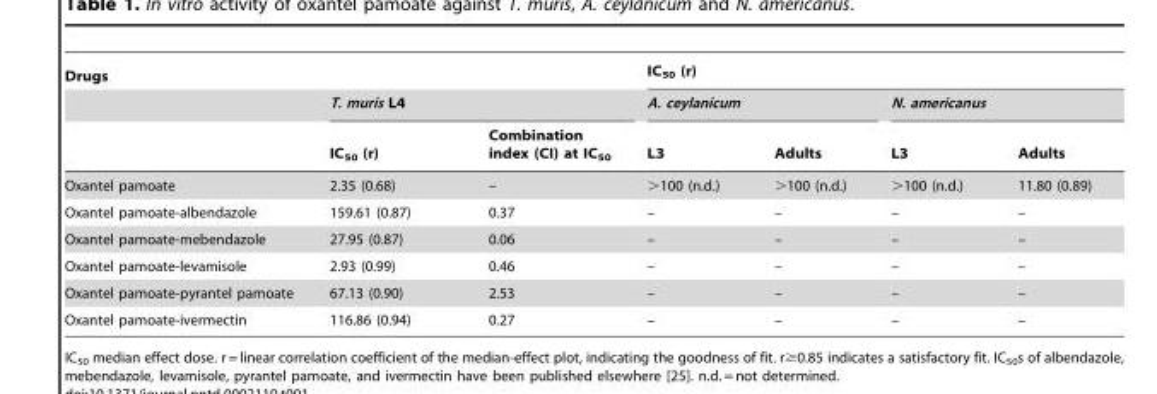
<table><thead><tr><td rowspan="3">Drugs</td><td></td><td></td><td colspan="4">IC<sub>50</sub> (r)</td></tr><tr><td colspan="2">T. muris L4</td><td colspan="2">A. ceylanicum</td><td colspan="2">N. americanus</td></tr><tr><td>IC<sub>50</sub> (r)</td><td>Combination index (CI) at IC<sub>50</sub></td><td>L3</td><td>Adults</td><td>L3</td><td>Adults</td></tr></thead><tbody><tr><td>Oxantel pamoate</td><td>2.35 (0.68)</td><td>–</td><td>&gt;100 (n.d.)</td><td>&gt;100 (n.d.)</td><td>&gt;100 (n.d.)</td><td>11.80 (0.89)</td></tr><tr><td>Oxantel pamoate-albendazole</td><td>159.61 (0.87)</td><td>0.37</td><td>–</td><td>–</td><td>–</td><td>–</td></tr><tr><td>Oxantel pamoate-mebendazole</td><td>27.95 (0.87)</td><td>0.06</td><td>–</td><td>–</td><td>–</td><td>–</td></tr><tr><td>Oxantel pamoate-levamisole</td><td>2.93 (0.99)</td><td>0.46</td><td>–</td><td>–</td><td>–</td><td>–</td></tr><tr><td>Oxantel pamoate-pyrantel pamoate</td><td>67.13 (0.90)</td><td>2.53</td><td>–</td><td>–</td><td>–</td><td>–</td></tr><tr><td>Oxantel pamoate-ivermectin</td><td>116.86 (0.94)</td><td>0.27</td><td>–</td><td>–</td><td>–</td><td>–</td></tr></tbody></table>